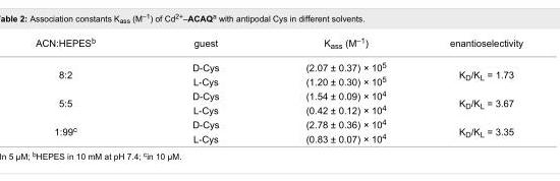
<table><tbody><tr><td>ACN:HEPES<sup>b</sup></td><td>guest</td><td>K<sub>ass</sub> (M<sup>–1</sup>)</td><td>enantioselectivity</td></tr><tr><td rowspan="2">8:2</td><td>D-Cys</td><td>(2.07 ± 0.37) × 10<sup>5</sup></td><td rowspan="2">K<sub>D</sub>/K<sub>L</sub> = 1.73</td></tr><tr><td>L-Cys</td><td>(1.20 ± 0.30) × 10<sup>5</sup></td></tr><tr><td rowspan="2">5:5</td><td>D-Cys</td><td>(1.54 ± 0.09) × 10<sup>4</sup></td><td rowspan="2">K<sub>D</sub>/K<sub>L</sub> = 3.67</td></tr><tr><td>L-Cys</td><td>(0.42 ± 0.12) × 10<sup>4</sup></td></tr><tr><td rowspan="2">1:99<sup>c</sup></td><td>D-Cys</td><td>(2.78 ± 0.36) × 10<sup>4</sup></td><td rowspan="2">K<sub>D</sub>/K<sub>L</sub> = 3.35</td></tr><tr><td>L-Cys</td><td>(0.83 ± 0.07) × 10<sup>4</sup></td></tr></tbody></table>